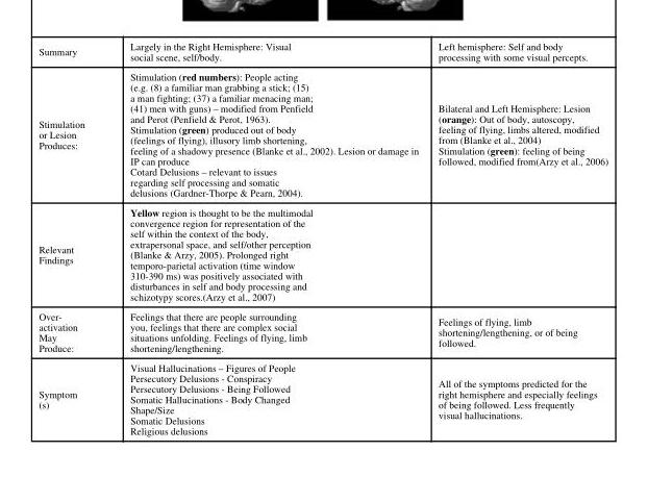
<table><tbody><tr><td>Summary</td><td>Largely in the Right Hemisphere: Visual social scene, self/body.</td><td>Left hemisphere: Self and body processing with some visual percepts.</td></tr><tr><td>Stimulation or Lesion Produces:</td><td>Stimulation (red numbers): People acting (e.g. (8) a familiar man grabbing a stick; (15) a man fighting; (37) a familiar menacing man; (41) men with guns) – modified from Penfield and Perot (Penfield &amp; Perot, 1963). Stimulation (green) produced out of body (feelings of flying), illusory limb shortening, feeling of a shadowy presence (Blanke et al., 2002). Lesion or damage in IP can produce Cotard Delusions – relevant to issues regarding self processing and somatic delusions (Gardner-Thorpe &amp; Pearn, 2004).</td><td>Bilateral and Left Hemisphere: Lesion (orange): Out of body, autoscopy, feeling of flying, limbs altered, modified from (Blanke et al., 2004) Stimulation (green): feeling of being followed, modified from(Arzy et al., 2006)</td></tr><tr><td>Relevant Findings</td><td>Yellow region is thought to be the multimodal convergence region for representation of the self within the context of the body, extrapersonal space, and self/other perception (Blanke &amp; Arzy, 2005). Prolonged right temporo-parietal activation (time window 310-390 ms) was positively associated with disturbances in self and body processing and schizotypy scores.(Arzy et al., 2007)</td><td></td></tr><tr><td>Over- activation May Produce:</td><td>Feelings that there are people surrounding you, feelings that there are complex social situations unfolding. Feelings of flying, limb shortening/lengthening.</td><td>Feelings of flying, limb shortening/lengthening, or of being followed.</td></tr><tr><td>Symptom (s)</td><td>Visual Hallucinations – Figures of People Persecutory Delusions - Conspiracy Persecutory Delusions - Being Followed Somatic Hallucinations - Body Changed Shape/Size Somatic Delusions Religious delusions</td><td>All of the symptoms predicted for the right hemisphere and especially feelings of being followed. Less frequently visual hallucinations.</td></tr></tbody></table>